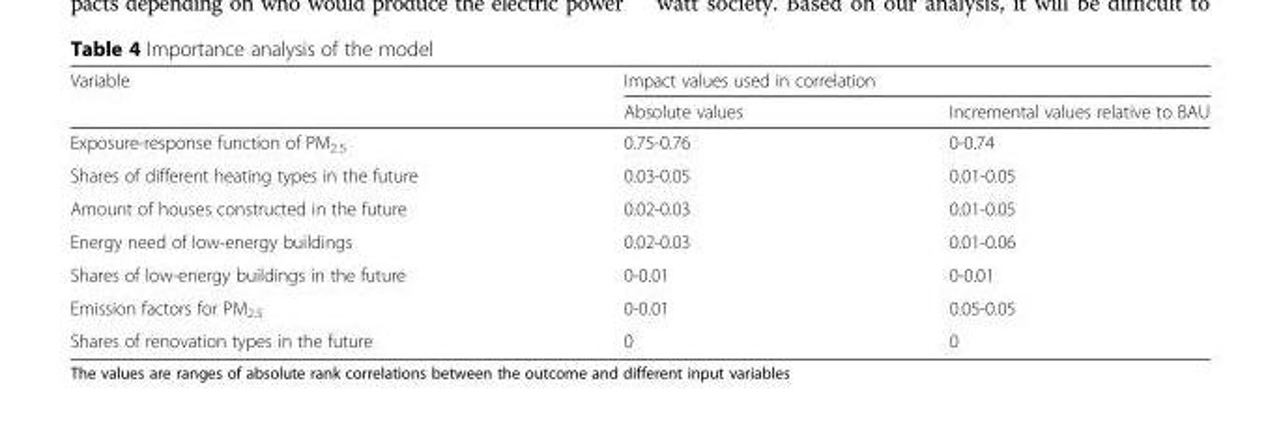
<table><thead><tr><td rowspan="2">Variable</td><td colspan="2">Impact values used in correlation</td></tr><tr><td>Absolute values</td><td>Incremental values relative to BAU</td></tr></thead><tbody><tr><td>Exposure-response function of PM<sub>2.5</sub></td><td>0.75-0.76</td><td>0-0.74</td></tr><tr><td>Shares of different heating types in the future</td><td>0.03-0.05</td><td>0.01-0.05</td></tr><tr><td>Amount of houses constructed in the future</td><td>0.02-0.03</td><td>0.01-0.05</td></tr><tr><td>Energy need of low-energy buildings</td><td>0.02-0.03</td><td>0.01-0.06</td></tr><tr><td>Shares of low-energy buildings in the future</td><td>0-0.01</td><td>0-0.01</td></tr><tr><td>Emission factors for PM<sub>2.5</sub></td><td>0-0.01</td><td>0.05-0.05</td></tr><tr><td>Shares of renovation types in the future</td><td>0</td><td>0</td></tr></tbody></table>